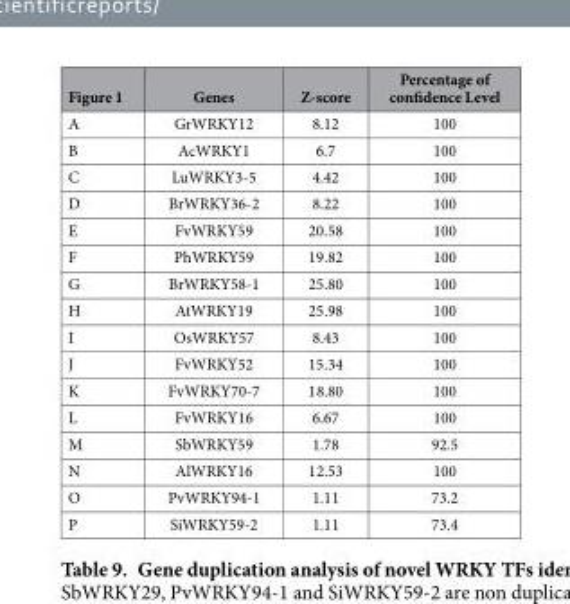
<table><thead><tr><td>Figure 1</td><td>Genes</td><td>Z-score</td><td>Percentage of confidence Level</td></tr></thead><tbody><tr><td>A</td><td>GrWRKY12</td><td>8.12</td><td>100</td></tr><tr><td>B</td><td>AcWRKY1</td><td>6.7</td><td>100</td></tr><tr><td>C</td><td>LuWRKY3-5</td><td>4.42</td><td>100</td></tr><tr><td>D</td><td>BrWRKY36-2</td><td>8.22</td><td>100</td></tr><tr><td>E</td><td>FvWRKY59</td><td>20.58</td><td>100</td></tr><tr><td>F</td><td>PhWRKY59</td><td>19.82</td><td>100</td></tr><tr><td>G</td><td>BrWRKY58-1</td><td>25.80</td><td>100</td></tr><tr><td>H</td><td>AtWRKY19</td><td>25.98</td><td>100</td></tr><tr><td>I</td><td>OsWRKY57</td><td>8.43</td><td>100</td></tr><tr><td>J</td><td>FvWRKY52</td><td>15.34</td><td>100</td></tr><tr><td>K</td><td>FvWRKY70-7</td><td>18.80</td><td>100</td></tr><tr><td>L</td><td>FvWRKY16</td><td>6.67</td><td>100</td></tr><tr><td>M</td><td>SbWRKY59</td><td>1.78</td><td>92.5</td></tr><tr><td>N</td><td>AlWRKY16</td><td>12.53</td><td>100</td></tr><tr><td>O</td><td>PvWRKY94-1</td><td>1.11</td><td>73.2</td></tr><tr><td>P</td><td>SiWRKY59-2</td><td>1.11</td><td>73.4</td></tr></tbody></table>